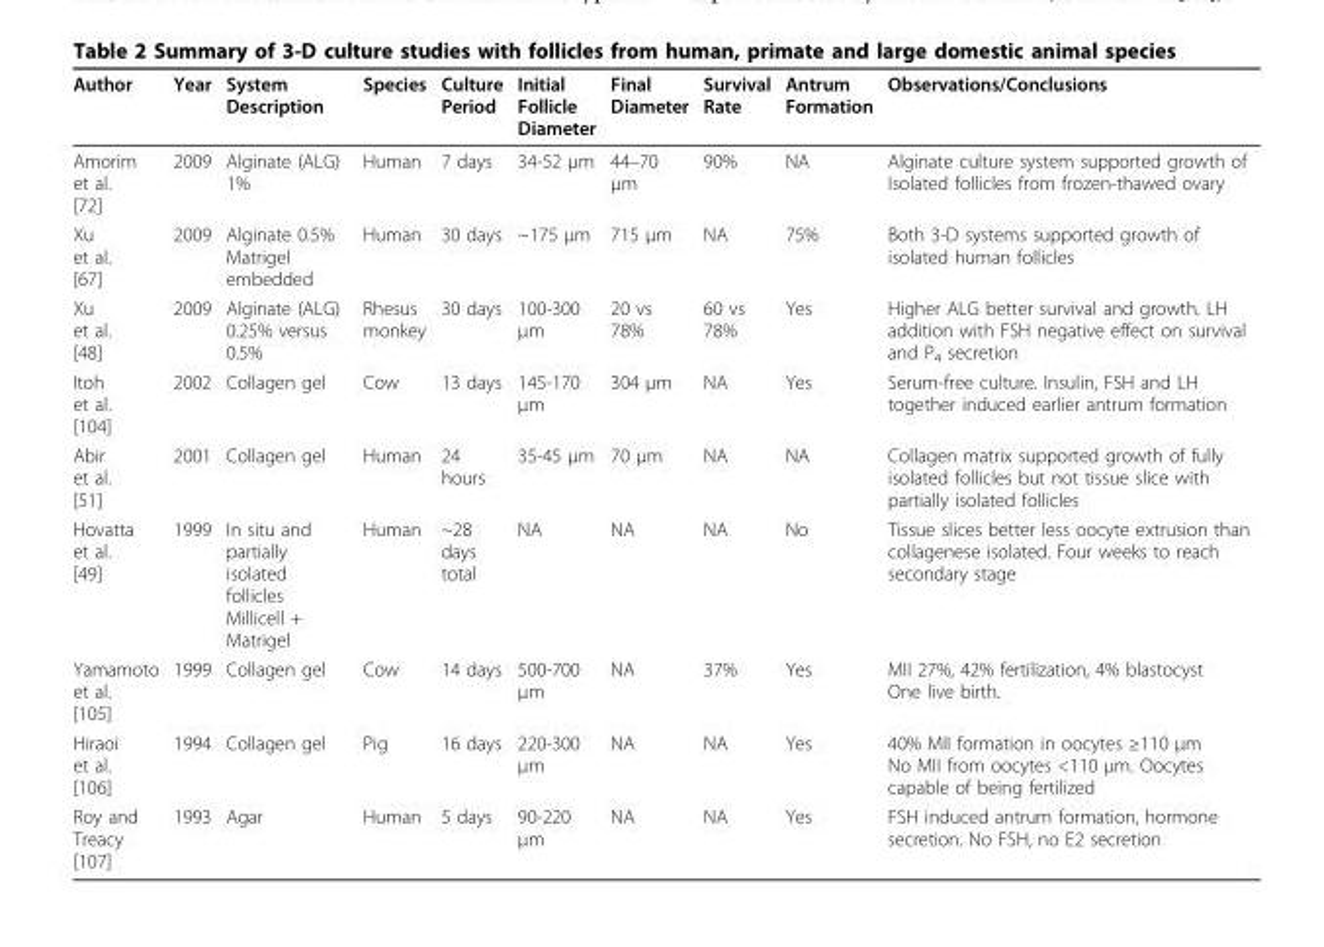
<table><thead><tr><td>Author</td><td>Year</td><td>System Description</td><td>Species</td><td>Culture Period</td><td>Initial Follicle Diameter</td><td>Final Diameter</td><td>Survival Rate</td><td>Antrum Formation</td><td>Observations/Conclusions</td></tr></thead><tbody><tr><td>Amorim et al. [72]</td><td>2009</td><td>Alginate (ALG) 1%</td><td>Human</td><td>7 days</td><td>34-52 μm</td><td>44–70 μm</td><td>90%</td><td>NA</td><td>Alginate culture system supported growth of Isolated follicles from frozen-thawed ovary</td></tr><tr><td>Xu et al. [67]</td><td>2009</td><td>Alginate 0.5% Matrigel embedded</td><td>Human</td><td>30 days</td><td>~175 μm</td><td>715 μm</td><td>NA</td><td>75%</td><td>Both 3-D systems supported growth of isolated human follicles</td></tr><tr><td>Xu et al. [48]</td><td>2009</td><td>Alginate (ALG) 0.25% versus 0.5%</td><td>Rhesus monkey</td><td>30 days</td><td>100-300 μm</td><td>20 vs 78%</td><td>60 vs 78%</td><td>Yes</td><td>Higher ALG better survival and growth. LH addition with FSH negative effect on survival and P<sub>4</sub> secretion</td></tr><tr><td>Itoh et al. [104]</td><td>2002</td><td>Collagen gel</td><td>Cow</td><td>13 days</td><td>145-170 μm</td><td>304 μm</td><td>NA</td><td>Yes</td><td>Serum-free culture. Insulin, FSH and LH together induced earlier antrum formation</td></tr><tr><td>Abir et al. [51]</td><td>2001</td><td>Collagen gel</td><td>Human</td><td>24 hours</td><td>35-45 μm</td><td>70 μm</td><td>NA</td><td>NA</td><td>Collagen matrix supported growth of fully isolated follicles but not tissue slice with partially isolated follicles</td></tr><tr><td>Hovatta et al. [49]</td><td>1999</td><td>In situ and partially isolated follicles Millicell + Matrigel</td><td>Human</td><td>~28 days total</td><td>NA</td><td>NA</td><td>NA</td><td>No</td><td>Tissue slices better less oocyte extrusion than collagenese isolated. Four weeks to reach secondary stage</td></tr><tr><td>Yamamoto et al. [105]</td><td>1999</td><td>Collagen gel</td><td>Cow</td><td>14 days</td><td>500-700 μm</td><td>NA</td><td>37%</td><td>Yes</td><td>MII 27%, 42% fertilization, 4% blastocyst One live birth.</td></tr><tr><td>Hiraoi et al. [106]</td><td>1994</td><td>Collagen gel</td><td>Pig</td><td>16 days</td><td>220-300 μm</td><td>NA</td><td>NA</td><td>Yes</td><td>40% MII formation in oocytes ≥110 μm No MII from oocytes &lt;110 μm. Oocytes capable of being fertilized</td></tr><tr><td>Roy and Treacy [107]</td><td>1993</td><td>Agar</td><td>Human</td><td>5 days</td><td>90-220 μm</td><td>NA</td><td>NA</td><td>Yes</td><td>FSH induced antrum formation, hormone secretion. No FSH, no E2 secretion</td></tr></tbody></table>